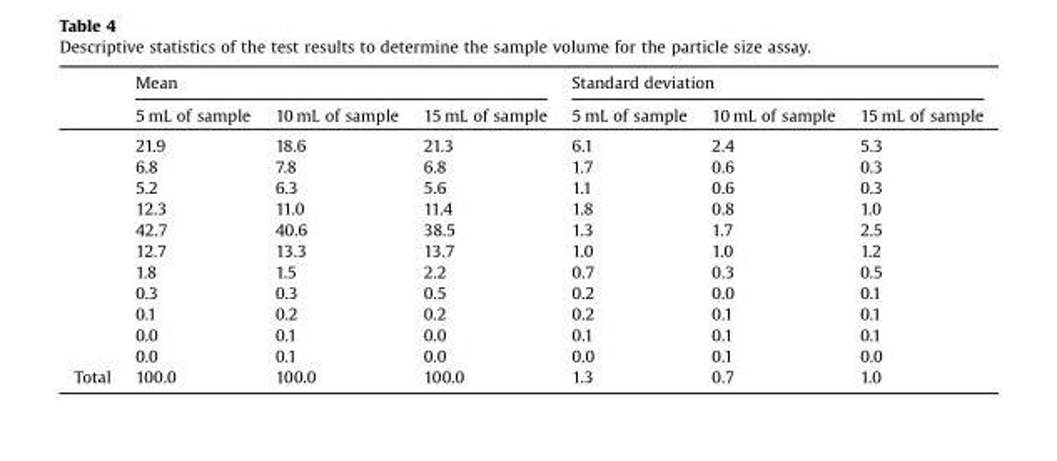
<table><thead><tr><td rowspan="2"></td><td colspan="3">Mean</td><td colspan="3">Standard deviation</td></tr><tr><td>5 mL of sample</td><td>10 mL of sample</td><td>15 mL of sample</td><td>5 mL of sample</td><td>10 mL of sample</td><td>15 mL of sample</td></tr></thead><tbody><tr><td></td><td>21.9</td><td>18.6</td><td>21.3</td><td>6.1</td><td>2.4</td><td>5.3</td></tr><tr><td></td><td>6.8</td><td>7.8</td><td>6.8</td><td>1.7</td><td>0.6</td><td>0.3</td></tr><tr><td></td><td>5.2</td><td>6.3</td><td>5.6</td><td>1.1</td><td>0.6</td><td>0.3</td></tr><tr><td></td><td>12.3</td><td>11.0</td><td>11.4</td><td>1.8</td><td>0.8</td><td>1.0</td></tr><tr><td></td><td>42.7</td><td>40.6</td><td>38.5</td><td>1.3</td><td>1.7</td><td>2.5</td></tr><tr><td></td><td>12.7</td><td>13.3</td><td>13.7</td><td>1.0</td><td>1.0</td><td>1.2</td></tr><tr><td></td><td>1.8</td><td>1.5</td><td>2.2</td><td>0.7</td><td>0.3</td><td>0.5</td></tr><tr><td></td><td>0.3</td><td>0.3</td><td>0.5</td><td>0.2</td><td>0.0</td><td>0.1</td></tr><tr><td></td><td>0.1</td><td>0.2</td><td>0.2</td><td>0.2</td><td>0.1</td><td>0.1</td></tr><tr><td></td><td>0.0</td><td>0.1</td><td>0.0</td><td>0.1</td><td>0.1</td><td>0.1</td></tr><tr><td></td><td>0.0</td><td>0.1</td><td>0.0</td><td>0.0</td><td>0.1</td><td>0.0</td></tr><tr><td>Total</td><td>100.0</td><td>100.0</td><td>100.0</td><td>1.3</td><td>0.7</td><td>1.0</td></tr></tbody></table>